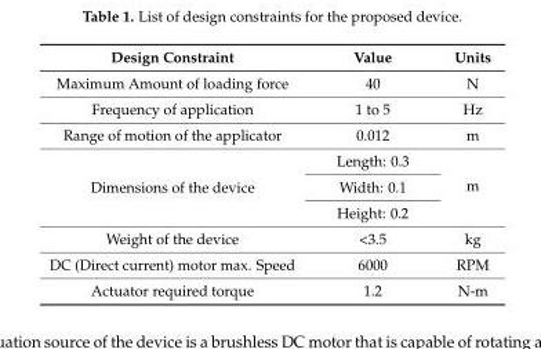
<table><thead><tr><td>Design Constraint</td><td>Value</td><td>Units</td></tr></thead><tbody><tr><td>Maximum Amount of loading force</td><td>40</td><td>N</td></tr><tr><td>Frequency of application</td><td>1 to 5</td><td>Hz</td></tr><tr><td>Range of motion of the applicator</td><td>0.012</td><td>m</td></tr><tr><td rowspan="3">Dimensions of the device</td><td>Length: 0.3</td><td rowspan="3">m</td></tr><tr><td>Width: 0.1</td></tr><tr><td>Height: 0.2</td></tr><tr><td>Weight of the device</td><td>&lt;3.5</td><td>kg</td></tr><tr><td>DC (Direct current) motor max. Speed</td><td>6000</td><td>RPM</td></tr><tr><td>Actuator required torque</td><td>1.2</td><td>N-m</td></tr></tbody></table>